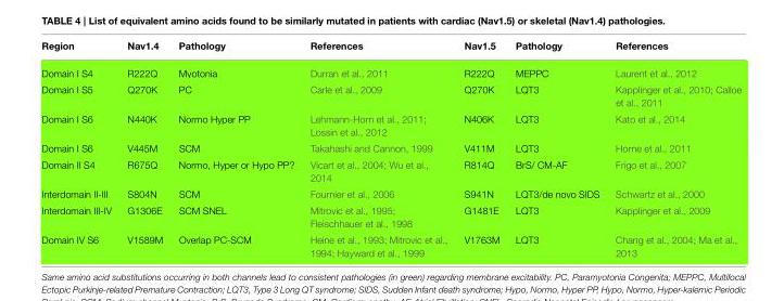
<table><thead><tr><td>Region</td><td>Nav1.4</td><td>Pathology</td><td>References</td><td>Nav1.5</td><td>Pathology</td><td>References</td></tr></thead><tbody><tr><td>Domain I S4</td><td>R222Q</td><td>Myotonia</td><td>Durran et al., 2011</td><td>R222Q</td><td>MEPPC</td><td>Laurent et al., 2012</td></tr><tr><td>Domain I S5</td><td>Q270K</td><td>PC</td><td>Carle et al., 2009</td><td>Q270K</td><td>LQT3</td><td>Kapplinger et al., 2010; Calloe et al., 2011</td></tr><tr><td>Domain I S6</td><td>N440K</td><td>Normo Hyper PP</td><td>Lehmann-Horn et al., 2011; Lossin et al., 2012</td><td>N406K</td><td>LQT3</td><td>Kato et al., 2014</td></tr><tr><td>Domain I S6</td><td>V445M</td><td>SCM</td><td>Takahashi and Cannon, 1999</td><td>V411M</td><td>LQT3</td><td>Horne et al., 2011</td></tr><tr><td>Domain II S4</td><td>R675Q</td><td>Normo, Hyper or Hypo PP?</td><td>Vicart et al., 2004; Wu et al., 2014</td><td>R814Q</td><td>BrS/ CM-AF</td><td>Frigo et al., 2007</td></tr><tr><td>Interdomain II-III</td><td>S804N</td><td>SCM</td><td>Fournier et al., 2006</td><td>S941N</td><td>LQT3/de novo SIDS</td><td>Schwartz et al., 2000</td></tr><tr><td>Interdomain III-IV</td><td>G1306E</td><td>SCM SNEL</td><td>Mitrovic et al., 1995; Fleischhauer et al., 1998</td><td>G1481E</td><td>LQT3</td><td>Kapplinger et al., 2009</td></tr><tr><td>Domain IV S6</td><td>V1589M</td><td>Overlap PC-SCM</td><td>Heine et al., 1993; Mitrovic et al., 1994; Hayward et al., 1999</td><td>V1763M</td><td>LQT3</td><td>Chang et al., 2004; Ma et al., 2013</td></tr></tbody></table>